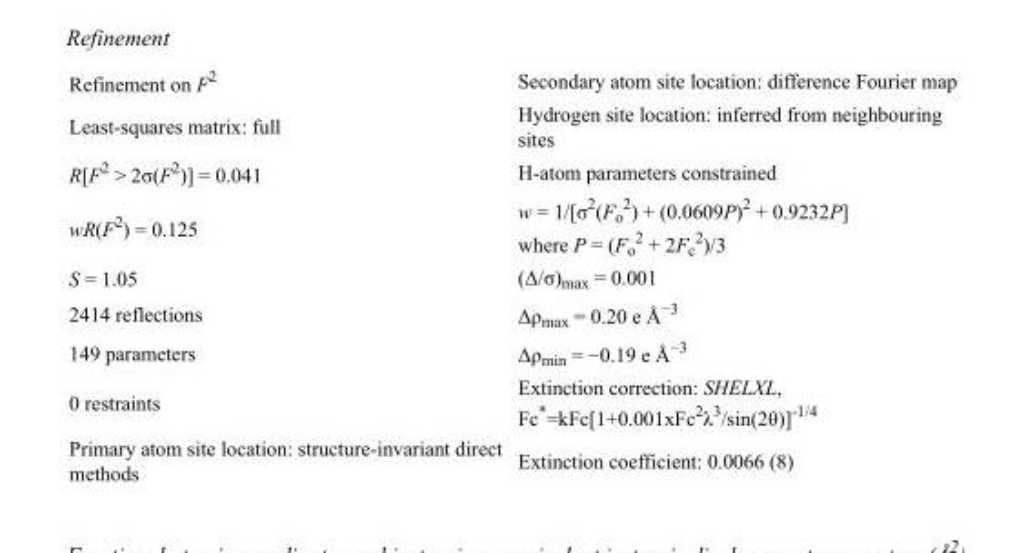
<table><tbody><tr><td>Refinement on F<sup>2</sup></td><td>Secondary atom site location: difference Fourier map</td></tr><tr><td>Least-squares matrix: full</td><td>Hydrogen site location: inferred from neighbouring sites</td></tr><tr><td>R[F<sup>2</sup> &gt; 2σ(F<sup>2</sup>)] = 0.041</td><td>H-atom parameters constrained</td></tr><tr><td>wR(F<sup>2</sup>) = 0.125</td><td>w = 1/[σ<sup>2</sup>(F<sub>o</sub> <sup>2</sup>) + (0.0609P)<sup>2</sup> + 0.9232P] where P = (F<sub>o</sub> <sup>2</sup> + 2F<sub>c</sub> <sup>2</sup>)/3</td></tr><tr><td>S = 1.05</td><td>(Δ/σ)<sub>max</sub> = 0.001</td></tr><tr><td>2414 reflections</td><td>Δρ<sub>max</sub> = 0.20 e Å<sup>−3</sup></td></tr><tr><td>149 parameters</td><td>Δρ<sub>min</sub> = −0.19 e Å<sup>−3</sup></td></tr><tr><td>0 restraints</td><td>Extinction correction: SHELXL, Fc*=kFc[1+0.001xFc<sup>2</sup>λ<sup>3</sup>/sin(2θ)]<sup>-1/4</sup></td></tr><tr><td>Primary atom site location: structure-invariant direct methods</td><td>Extinction coefficient: 0.0066 (8)</td></tr></tbody></table>